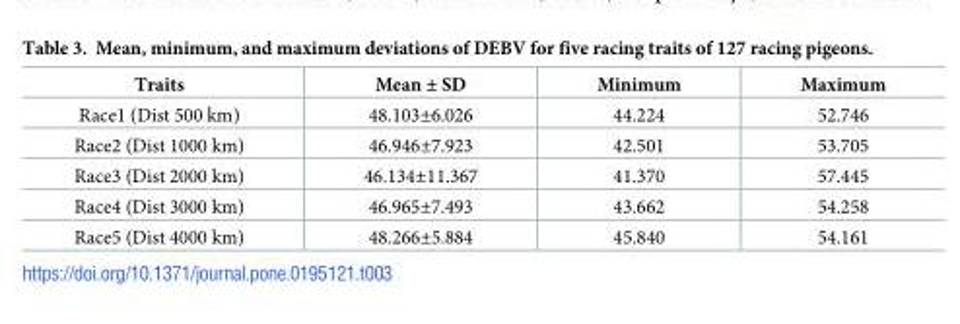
<table><thead><tr><td>Traits</td><td>Mean ± SD</td><td>Minimum</td><td>Maximum</td></tr></thead><tbody><tr><td>Race1 (Dist 500 km)</td><td>48.103±6.026</td><td>44.224</td><td>52.746</td></tr><tr><td>Race2 (Dist 1000 km)</td><td>46.946±7.923</td><td>42.501</td><td>53.705</td></tr><tr><td>Race3 (Dist 2000 km)</td><td>46.134±11.367</td><td>41.370</td><td>57.445</td></tr><tr><td>Race4 (Dist 3000 km)</td><td>46.965±7.493</td><td>43.662</td><td>54.258</td></tr><tr><td>Race5 (Dist 4000 km)</td><td>48.266±5.884</td><td>45.840</td><td>54.161</td></tr></tbody></table>